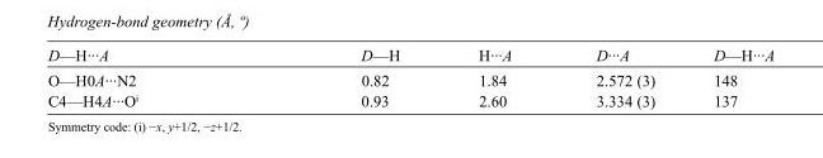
<table><tbody><tr><td>D—H···A</td><td>D—H</td><td>H···A</td><td>D···A</td><td>D—H···A</td></tr><tr><td>O—H0A···N2</td><td>0.82</td><td>1.84</td><td>2.572 (3)</td><td>148</td></tr><tr><td>C4—H4A···O<sup>i</sup></td><td>0.93</td><td>2.60</td><td>3.334 (3)</td><td>137</td></tr></tbody></table>